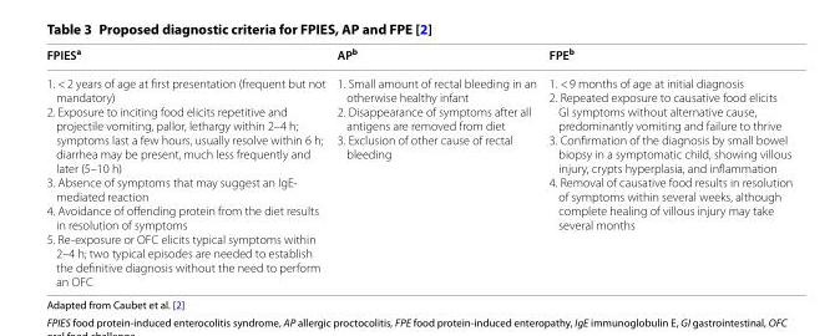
<table><thead><tr><td>FPIES<sup>a</sup></td><td>AP<sup>b</sup></td><td>FPE<sup>b</sup></td></tr></thead><tbody><tr><td>1. &lt; 2 years of age at first presentation (frequent but not mandatory) 2. Exposure to inciting food elicits repetitive and projectile vomiting, pallor, lethargy within 2–4 h; symptoms last a few hours, usually resolve within 6 h; diarrhea may be present, much less frequently and later (5–10 h) 3. Absence of symptoms that may suggest an IgE- mediated reaction 4. Avoidance of offending protein from the diet results in resolution of symptoms 5. Re-exposure or OFC elicits typical symptoms within 2–4 h; two typical episodes are needed to establish the definitive diagnosis without the need to perform an OFC</td><td>1. Small amount of rectal bleeding in an otherwise healthy infant 2. Disappearance of symptoms after all antigens are removed from diet 3. Exclusion of other cause of rectal bleeding</td><td>1. &lt; 9 months of age at initial diagnosis 2. Repeated exposure to causative food elicits GI symptoms without alternative cause, predominantly vomiting and failure to thrive 3. Confirmation of the diagnosis by small bowel biopsy in a symptomatic child, showing villous injury, crypts hyperplasia, and inflammation 4. Removal of causative food results in resolution of symptoms within several weeks, although complete healing of villous injury may take several months</td></tr></tbody></table>